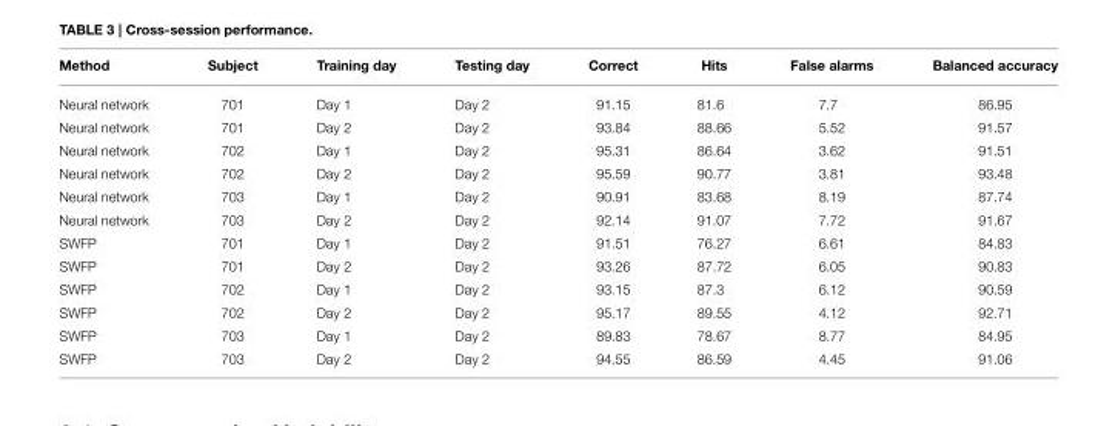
<table><thead><tr><td>Method</td><td>Subject</td><td>Training day</td><td>Testing day</td><td>Correct</td><td>Hits</td><td>False alarms</td><td>Balanced accuracy</td></tr></thead><tbody><tr><td>Neural network</td><td>701</td><td>Day 1</td><td>Day 2</td><td>91.15</td><td>81.6</td><td>7.7</td><td>86.95</td></tr><tr><td>Neural network</td><td>701</td><td>Day 2</td><td>Day 2</td><td>93.84</td><td>88.66</td><td>5.52</td><td>91.57</td></tr><tr><td>Neural network</td><td>702</td><td>Day 1</td><td>Day 2</td><td>95.31</td><td>86.64</td><td>3.62</td><td>91.51</td></tr><tr><td>Neural network</td><td>702</td><td>Day 2</td><td>Day 2</td><td>95.59</td><td>90.77</td><td>3.81</td><td>93.48</td></tr><tr><td>Neural network</td><td>703</td><td>Day 1</td><td>Day 2</td><td>90.91</td><td>83.68</td><td>8.19</td><td>87.74</td></tr><tr><td>Neural network</td><td>703</td><td>Day 2</td><td>Day 2</td><td>92.14</td><td>91.07</td><td>7.72</td><td>91.67</td></tr><tr><td>SWFP</td><td>701</td><td>Day 1</td><td>Day 2</td><td>91.51</td><td>76.27</td><td>6.61</td><td>84.83</td></tr><tr><td>SWFP</td><td>701</td><td>Day 2</td><td>Day 2</td><td>93.26</td><td>87.72</td><td>6.05</td><td>90.83</td></tr><tr><td>SWFP</td><td>702</td><td>Day 1</td><td>Day 2</td><td>93.15</td><td>87.3</td><td>6.12</td><td>90.59</td></tr><tr><td>SWFP</td><td>702</td><td>Day 2</td><td>Day 2</td><td>95.17</td><td>89.55</td><td>4.12</td><td>92.71</td></tr><tr><td>SWFP</td><td>703</td><td>Day 1</td><td>Day 2</td><td>89.83</td><td>78.67</td><td>8.77</td><td>84.95</td></tr><tr><td>SWFP</td><td>703</td><td>Day 2</td><td>Day 2</td><td>94.55</td><td>86.59</td><td>4.45</td><td>91.06</td></tr></tbody></table>